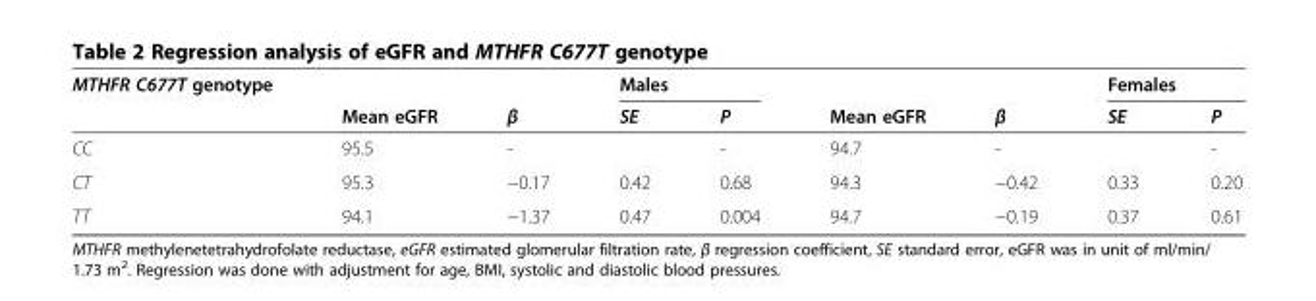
<table><thead><tr><td rowspan="2">MTHFR C677T genotype</td><td rowspan="2">Mean eGFR</td><td rowspan="2">β</td><td colspan="2">Males</td><td rowspan="2">Mean eGFR</td><td rowspan="2">β</td><td colspan="2">Females</td></tr><tr><td>SE</td><td>P</td><td>SE</td><td>P</td></tr></thead><tbody><tr><td>CC</td><td>95.5</td><td>-</td><td></td><td>-</td><td>94.7</td><td>-</td><td></td><td>-</td></tr><tr><td>CT</td><td>95.3</td><td>−0.17</td><td>0.42</td><td>0.68</td><td>94.3</td><td>−0.42</td><td>0.33</td><td>0.20</td></tr><tr><td>TT</td><td>94.1</td><td>−1.37</td><td>0.47</td><td>0.004</td><td>94.7</td><td>−0.19</td><td>0.37</td><td>0.61</td></tr></tbody></table>